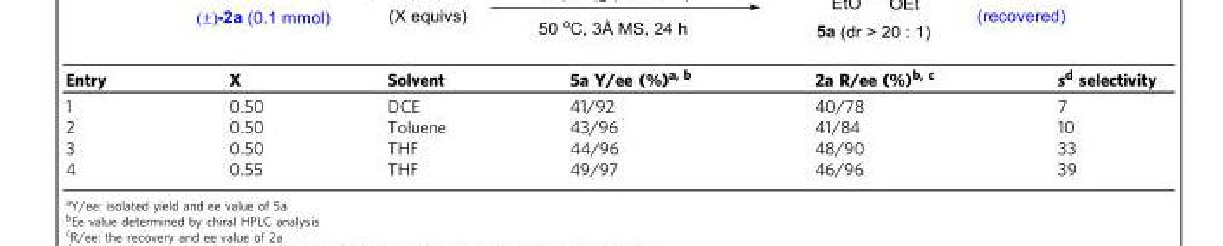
<table><thead><tr><td>Entry</td><td>X</td><td>Solvent</td><td>5a Y/ee (%)<sup>a, b</sup></td><td>2a R/ee (%)<sup>b, c</sup></td><td>s<sup>d</sup> selectivity</td></tr></thead><tbody><tr><td>1</td><td>0.50</td><td>DCE</td><td>41/92</td><td>40/78</td><td>7</td></tr><tr><td>2</td><td>0.50</td><td>Toluene</td><td>43/96</td><td>41/84</td><td>10</td></tr><tr><td>3</td><td>0.50</td><td>THF</td><td>44/96</td><td>48/90</td><td>33</td></tr><tr><td>4</td><td>0.55</td><td>THF</td><td>49/97</td><td>46/96</td><td>39</td></tr></tbody></table>